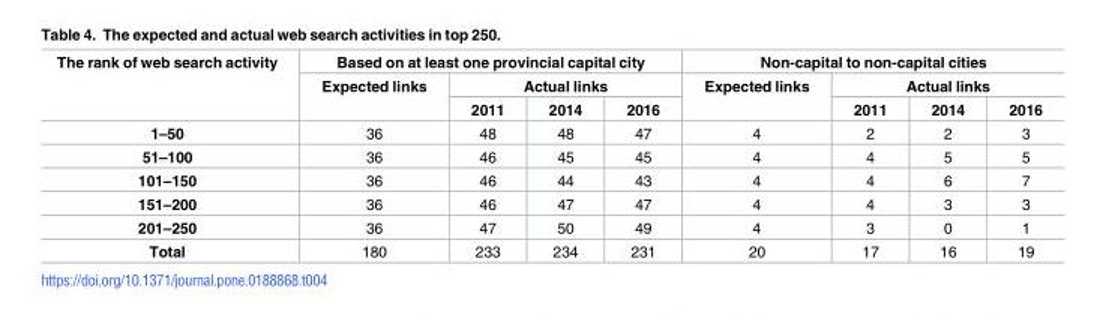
<table><thead><tr><td rowspan="3">The rank of web search activity</td><td colspan="4">Based on at least one provincial capital city</td><td colspan="4">Non-capital to non-capital cities</td></tr><tr><td rowspan="2">Expected links</td><td colspan="3">Actual links</td><td rowspan="2">Expected links</td><td colspan="3">Actual links</td></tr><tr><td>2011</td><td>2014</td><td>2016</td><td>2011</td><td>2014</td><td>2016</td></tr></thead><tbody><tr><td>1–50</td><td>36</td><td>48</td><td>48</td><td>47</td><td>4</td><td>2</td><td>2</td><td>3</td></tr><tr><td>51–100</td><td>36</td><td>46</td><td>45</td><td>45</td><td>4</td><td>4</td><td>5</td><td>5</td></tr><tr><td>101–150</td><td>36</td><td>46</td><td>44</td><td>43</td><td>4</td><td>4</td><td>6</td><td>7</td></tr><tr><td>151–200</td><td>36</td><td>46</td><td>47</td><td>47</td><td>4</td><td>4</td><td>3</td><td>3</td></tr><tr><td>201–250</td><td>36</td><td>47</td><td>50</td><td>49</td><td>4</td><td>3</td><td>0</td><td>1</td></tr><tr><td>Total</td><td>180</td><td>233</td><td>234</td><td>231</td><td>20</td><td>17</td><td>16</td><td>19</td></tr></tbody></table>